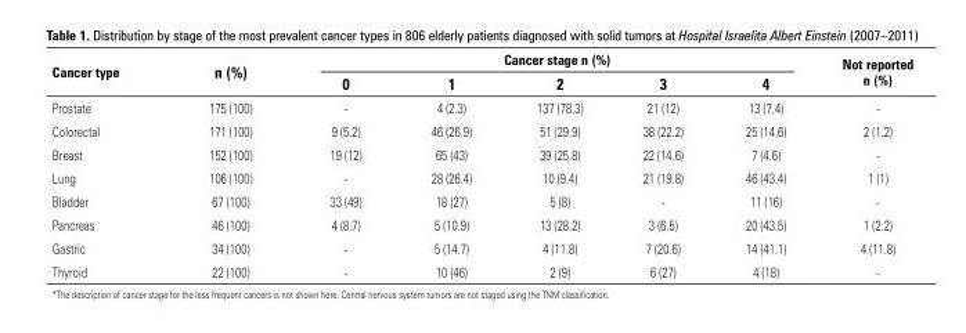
<table><thead><tr><td rowspan="2">cancer type</td><td rowspan="2">n (%)</td><td colspan="5">cancer stage n (%)</td><td rowspan="2">not reported n (%)</td></tr><tr><td>0</td><td>1</td><td>2</td><td>3</td><td>4</td></tr></thead><tbody><tr><td>Prostate</td><td>175 (100)</td><td>-</td><td>4 (2.3)</td><td>137 (78.3)</td><td>21 (12)</td><td>13 (7.4)</td><td>-</td></tr><tr><td>Colorectal</td><td>171 (100)</td><td>9 (5.2)</td><td>46 (26.9)</td><td>51 (29.9)</td><td>38 (22.2)</td><td>25 (14.6)</td><td>2 (1.2)</td></tr><tr><td>Breast</td><td>152 (100)</td><td>19 (12)</td><td>65 (43)</td><td>39 (25.8)</td><td>22 (14.6)</td><td>7 (4.6)</td><td>-</td></tr><tr><td>Lung</td><td>106 (100)</td><td>-</td><td>28 (26.4)</td><td>10 (9.4)</td><td>21 (19.8)</td><td>46 (43.4)</td><td>1 (1)</td></tr><tr><td>Bladder</td><td>67 (100)</td><td>33 (49)</td><td>18 (27)</td><td>5 (8)</td><td>-</td><td>11 (16)</td><td>-</td></tr><tr><td>Pancreas</td><td>46 (100)</td><td>4 (8.7)</td><td>5 (10.9)</td><td>13 (28.2)</td><td>3 (6.5)</td><td>20 (43.5)</td><td>1 (2.2)</td></tr><tr><td>Gastric</td><td>34 (100)</td><td>-</td><td>5 (14.7)</td><td>4 (11.8)</td><td>7 (20.6)</td><td>14 (41.1)</td><td>4 (11.8)</td></tr><tr><td>Thyroid</td><td>22 (100)</td><td>-</td><td>10 (46)</td><td>2 (9)</td><td>6 (27)</td><td>4 (18)</td><td>-</td></tr></tbody></table>